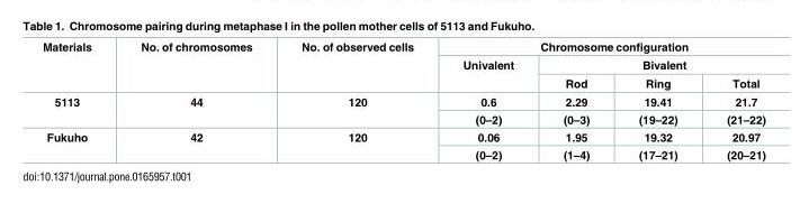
<table><thead><tr><td rowspan="3">Materials</td><td rowspan="3">No. of chromosomes</td><td rowspan="3">No. of observed cells</td><td colspan="4">Chromosome configuration</td></tr><tr><td rowspan="2">Univalent</td><td colspan="3">Bivalent</td></tr><tr><td>Rod</td><td>Ring</td><td>Total</td></tr></thead><tbody><tr><td rowspan="2">5113</td><td rowspan="2">44</td><td rowspan="2">120</td><td>0.6</td><td>2.29</td><td>19.41</td><td>21.7</td></tr><tr><td>(0–2)</td><td>(0–3)</td><td>(19–22)</td><td>(21–22)</td></tr><tr><td rowspan="2">Fukuho</td><td rowspan="2">42</td><td rowspan="2">120</td><td>0.06</td><td>1.95</td><td>19.32</td><td>20.97</td></tr><tr><td>(0–2)</td><td>(1–4)</td><td>(17–21)</td><td>(20–21)</td></tr></tbody></table>